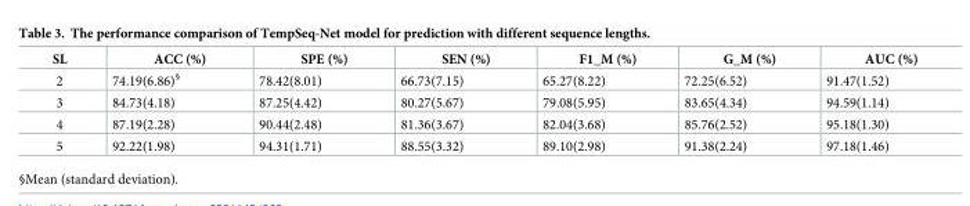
<table><thead><tr><td>SL</td><td>ACC (%)</td><td>SPE (%)</td><td>SEN (%)</td><td>F1_M (%)</td><td>G_M (%)</td><td>AUC (%)</td></tr></thead><tbody><tr><td>2</td><td>74.19(6.86)<sup>§</sup></td><td>78.42(8.01)</td><td>66.73(7.15)</td><td>65.27(8.22)</td><td>72.25(6.52)</td><td>91.47(1.52)</td></tr><tr><td>3</td><td>84.73(4.18)</td><td>87.25(4.42)</td><td>80.27(5.67)</td><td>79.08(5.95)</td><td>83.65(4.34)</td><td>94.59(1.14)</td></tr><tr><td>4</td><td>87.19(2.28)</td><td>90.44(2.48)</td><td>81.36(3.67)</td><td>82.04(3.68)</td><td>85.76(2.52)</td><td>95.18(1.30)</td></tr><tr><td>5</td><td>92.22(1.98)</td><td>94.31(1.71)</td><td>88.55(3.32)</td><td>89.10(2.98)</td><td>91.38(2.24)</td><td>97.18(1.46)</td></tr></tbody></table>